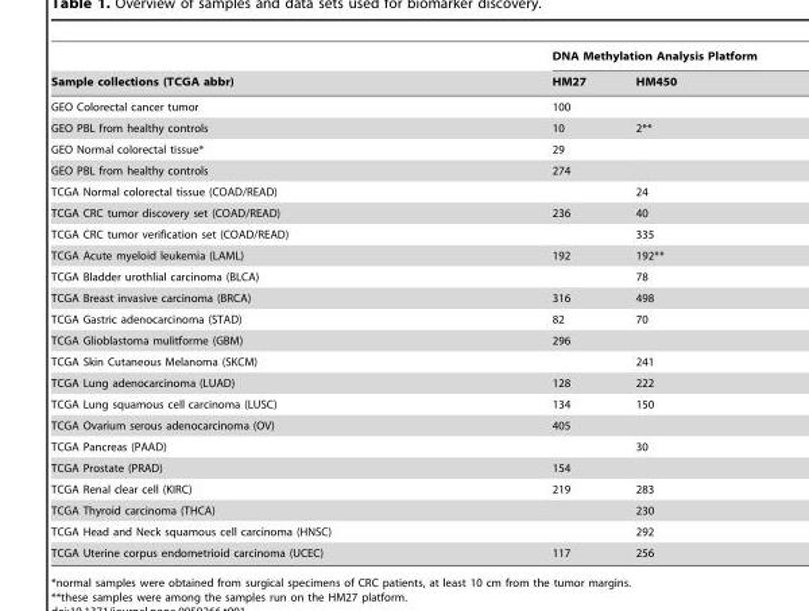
<table><thead><tr><td rowspan="2">Sample collections (TCGA abbr)</td><td colspan="2">DNA Methylation Analysis Platform</td></tr><tr><td>HM27</td><td>HM450</td></tr></thead><tbody><tr><td>GEO Colorectal cancer tumor</td><td>100</td><td></td></tr><tr><td>GEO PBL from healthy controls</td><td>10</td><td>2**</td></tr><tr><td>GEO Normal colorectal tissue*</td><td>29</td><td></td></tr><tr><td>GEO PBL from healthy controls</td><td>274</td><td></td></tr><tr><td>TCGA Normal colorectal tissue (COAD/READ)</td><td></td><td>24</td></tr><tr><td>TCGA CRC tumor discovery set (COAD/READ)</td><td>236</td><td>40</td></tr><tr><td>TCGA CRC tumor verification set (COAD/READ)</td><td></td><td>335</td></tr><tr><td>TCGA Acute myeloid leukemia (LAML)</td><td>192</td><td>192**</td></tr><tr><td>TCGA Bladder urothlial carcinoma (BLCA)</td><td></td><td>78</td></tr><tr><td>TCGA Breast invasive carcinoma (BRCA)</td><td>316</td><td>498</td></tr><tr><td>TCGA Gastric adenocarcinoma (STAD)</td><td>82</td><td>70</td></tr><tr><td>TCGA Glioblastoma mulitforme (GBM)</td><td>296</td><td></td></tr><tr><td>TCGA Skin Cutaneous Melanoma (SKCM)</td><td></td><td>241</td></tr><tr><td>TCGA Lung adenocarcinoma (LUAD)</td><td>128</td><td>222</td></tr><tr><td>TCGA Lung squamous cell carcinoma (LUSC)</td><td>134</td><td>150</td></tr><tr><td>TCGA Ovarium serous adenocarcinoma (OV)</td><td>405</td><td></td></tr><tr><td>TCGA Pancreas (PAAD)</td><td></td><td>30</td></tr><tr><td>TCGA Prostate (PRAD)</td><td>154</td><td></td></tr><tr><td>TCGA Renal clear cell (KIRC)</td><td>219</td><td>283</td></tr><tr><td>TCGA Thyroid carcinoma (THCA)</td><td></td><td>230</td></tr><tr><td>TCGA Head and Neck squamous cell carcinoma (HNSC)</td><td></td><td>292</td></tr><tr><td>TCGA Uterine corpus endometrioid carcinoma (UCEC)</td><td>117</td><td>256</td></tr></tbody></table>